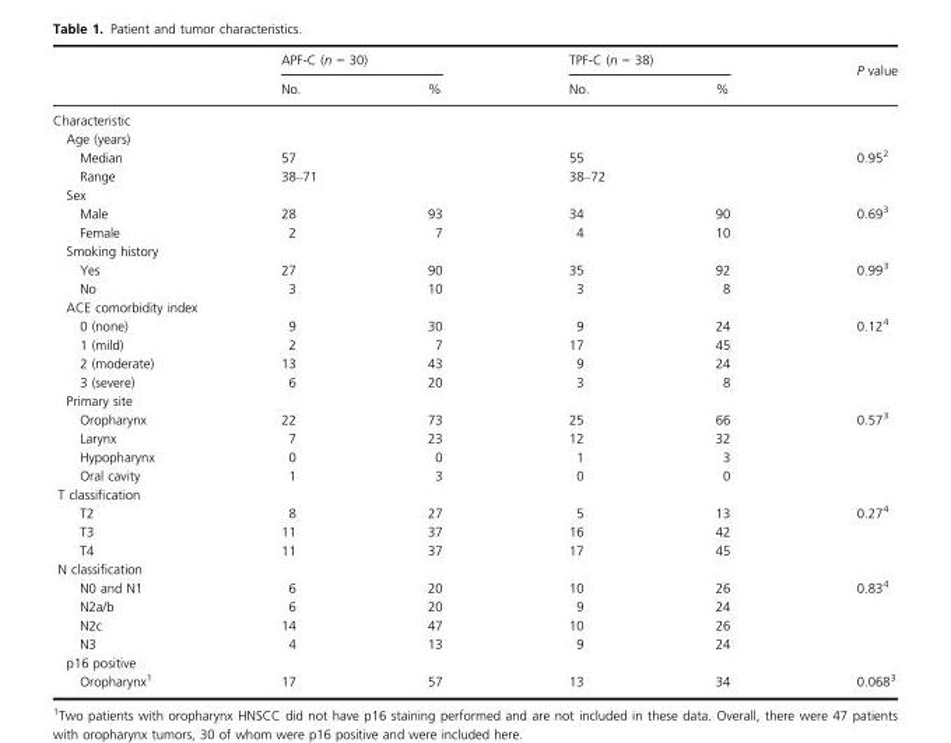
<table><thead><tr><td rowspan="2"></td><td colspan="2">APF-C (n = 30)</td><td colspan="2">TPF-C (n = 38)</td><td rowspan="2">P value</td></tr><tr><td>No.</td><td>%</td><td>No.</td><td>%</td></tr></thead><tbody><tr><td colspan="6">Characteristic</td></tr><tr><td colspan="6">Age (years)</td></tr><tr><td>Median</td><td colspan="2">57</td><td colspan="2">55</td><td rowspan="2">0.95<sup>2</sup></td></tr><tr><td>Range</td><td colspan="2">38–71</td><td colspan="2">38–72</td></tr><tr><td colspan="6">Sex</td></tr><tr><td>Male</td><td>28</td><td>93</td><td>34</td><td>90</td><td rowspan="2">0.69<sup>3</sup></td></tr><tr><td>Female</td><td>2</td><td>7</td><td>4</td><td>10</td></tr><tr><td colspan="6">Smoking history</td></tr><tr><td>Yes</td><td>27</td><td>90</td><td>35</td><td>92</td><td rowspan="2">0.99<sup>3</sup></td></tr><tr><td>No</td><td>3</td><td>10</td><td>3</td><td>8</td></tr><tr><td colspan="6">ACE comorbidity index</td></tr><tr><td>0 (none)</td><td>9</td><td>30</td><td>9</td><td>24</td><td>0.12<sup>4</sup></td></tr><tr><td>1 (mild)</td><td>2</td><td>7</td><td>17</td><td>45</td><td></td></tr><tr><td>2 (moderate)</td><td>13</td><td>43</td><td>9</td><td>24</td><td></td></tr><tr><td>3 (severe)</td><td>6</td><td>20</td><td>3</td><td>8</td><td></td></tr><tr><td colspan="6">Primary site</td></tr><tr><td>Oropharynx</td><td>22</td><td>73</td><td>25</td><td>66</td><td>0.57<sup>3</sup></td></tr><tr><td>Larynx</td><td>7</td><td>23</td><td>12</td><td>32</td><td></td></tr><tr><td>Hypopharynx</td><td>0</td><td>0</td><td>1</td><td>3</td><td></td></tr><tr><td>Oral cavity</td><td>1</td><td>3</td><td>0</td><td>0</td><td></td></tr><tr><td colspan="6">T classification</td></tr><tr><td>T2</td><td>8</td><td>27</td><td>5</td><td>13</td><td rowspan="3">0.27<sup>4</sup></td></tr><tr><td>T3</td><td>11</td><td>37</td><td>16</td><td>42</td></tr><tr><td>T4</td><td>11</td><td>37</td><td>17</td><td>45</td></tr><tr><td colspan="6">N classification</td></tr><tr><td>N0 and N1</td><td>6</td><td>20</td><td>10</td><td>26</td><td rowspan="4">0.83<sup>4</sup></td></tr><tr><td>N2a/b</td><td>6</td><td>20</td><td>9</td><td>24</td></tr><tr><td>N2c</td><td>14</td><td>47</td><td>10</td><td>26</td></tr><tr><td>N3</td><td>4</td><td>13</td><td>9</td><td>24</td></tr><tr><td colspan="6">p16 positive</td></tr><tr><td>Oropharynx<sup>1</sup></td><td>17</td><td>57</td><td>13</td><td>34</td><td>0.068<sup>3</sup></td></tr></tbody></table>